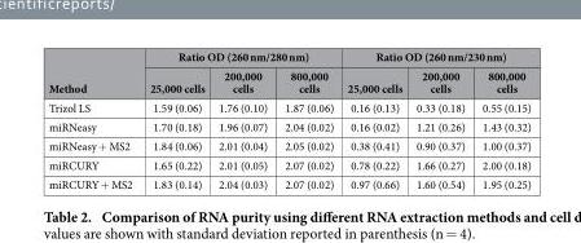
<table><thead><tr><td rowspan="2">Method</td><td colspan="3">Ratio OD (260 nm/280 nm)</td><td colspan="3">Ratio OD (260 nm/230 nm)</td></tr><tr><td>25,000 cells</td><td>200,000 cells</td><td>800,000 cells</td><td>25,000 cells</td><td>200,000 cells</td><td>800,000 cells</td></tr></thead><tbody><tr><td>Trizol LS</td><td>1.59 (0.06)</td><td>1.76 (0.10)</td><td>1.87 (0.06)</td><td>0.16 (0.13)</td><td>0.33 (0.18)</td><td>0.55 (0.15)</td></tr><tr><td>miRNeasy</td><td>1.70 (0.18)</td><td>1.96 (0.07)</td><td>2.04 (0.02)</td><td>0.16 (0.02)</td><td>1.21 (0.26)</td><td>1.43 (0.32)</td></tr><tr><td>miRNeasy + MS2</td><td>1.84 (0.06)</td><td>2.01 (0.04)</td><td>2.05 (0.02)</td><td>0.38 (0.41)</td><td>0.90 (0.37)</td><td>1.00 (0.37)</td></tr><tr><td>miRCURY</td><td>1.65 (0.22)</td><td>2.01 (0.05)</td><td>2.07 (0.02)</td><td>0.78 (0.22)</td><td>1.66 (0.27)</td><td>2.00 (0.18)</td></tr><tr><td>miRCURY + MS2</td><td>1.83 (0.14)</td><td>2.04 (0.03)</td><td>2.07 (0.02)</td><td>0.97 (0.66)</td><td>1.60 (0.54)</td><td>1.95 (0.25)</td></tr></tbody></table>